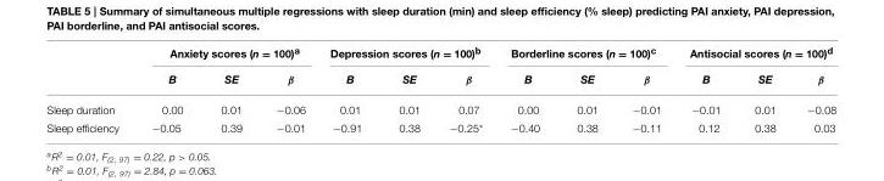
<table><thead><tr><td rowspan="2"></td><td colspan="3">Anxiety scores (n = 100)<sup>a</sup></td><td colspan="3">Depression scores (n = 100)<sup>b</sup></td><td colspan="3">Borderline scores (n = 100)<sup>c</sup></td><td colspan="3">Antisocial scores (n = 100)<sup>d</sup></td></tr><tr><td>B</td><td>SE</td><td>β</td><td>B</td><td>SE</td><td>β</td><td>B</td><td>SE</td><td>β</td><td>B</td><td>SE</td><td>β</td></tr></thead><tbody><tr><td>Sleep duration</td><td>0.00</td><td>0.01</td><td>−0.06</td><td>0.01</td><td>0.01</td><td>0.07</td><td>0.00</td><td>0.01</td><td>−0.01</td><td>−0.01</td><td>0.01</td><td>−0.08</td></tr><tr><td>Sleep efficiency</td><td>−0.05</td><td>0.39</td><td>−0.01</td><td>−0.91</td><td>0.38</td><td>−0.25*</td><td>−0.40</td><td>0.38</td><td>−0.11</td><td>0.12</td><td>0.38</td><td>0.03</td></tr></tbody></table>